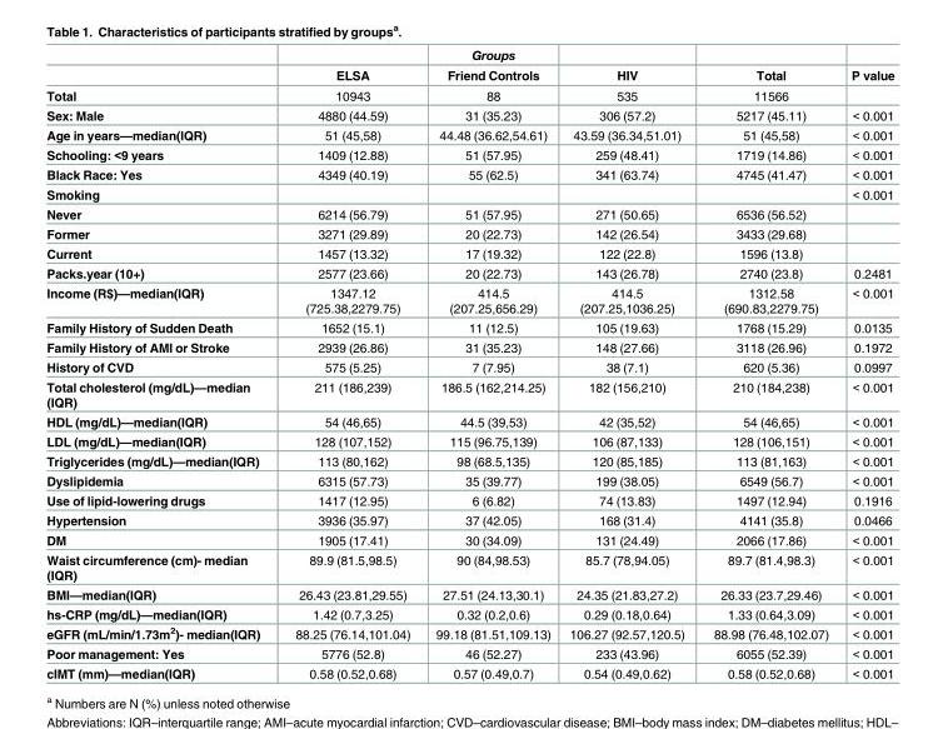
<table><thead><tr><td rowspan="2"></td><td rowspan="2">ELSA</td><td rowspan="2">Groups Friend Controls</td><td rowspan="2">HIV</td><td rowspan="2">Total</td><td rowspan="2">P value</td></tr><tr></tr></thead><tbody><tr><td>Total</td><td>10943</td><td>88</td><td>535</td><td>11566</td><td></td></tr><tr><td>Sex: Male</td><td>4880 (44.59)</td><td>31 (35.23)</td><td>306 (57.2)</td><td>5217 (45.11)</td><td>&lt; 0.001</td></tr><tr><td>Age in years—median(IQR)</td><td>51 (45,58)</td><td>44.48 (36.62,54.61)</td><td>43.59 (36.34,51.01)</td><td>51 (45,58)</td><td>&lt; 0.001</td></tr><tr><td>Schooling: &lt;9 years</td><td>1409 (12.88)</td><td>51 (57.95)</td><td>259 (48.41)</td><td>1719 (14.86)</td><td>&lt; 0.001</td></tr><tr><td>Black Race: Yes</td><td>4349 (40.19)</td><td>55 (62.5)</td><td>341 (63.74)</td><td>4745 (41.47)</td><td>&lt; 0.001</td></tr><tr><td>Smoking</td><td></td><td></td><td></td><td></td><td>&lt; 0.001</td></tr><tr><td>Never</td><td>6214 (56.79)</td><td>51 (57.95)</td><td>271 (50.65)</td><td>6536 (56.52)</td><td></td></tr><tr><td>Former</td><td>3271 (29.89)</td><td>20 (22.73)</td><td>142 (26.54)</td><td>3433 (29.68)</td><td></td></tr><tr><td>Current</td><td>1457 (13.32)</td><td>17 (19.32)</td><td>122 (22.8)</td><td>1596 (13.8)</td><td></td></tr><tr><td>Packs.year (10+)</td><td>2577 (23.66)</td><td>20 (22.73)</td><td>143 (26.78)</td><td>2740 (23.8)</td><td>0.2481</td></tr><tr><td>Income (R$)—median(IQR)</td><td>1347.12 (725.38,2279.75)</td><td>414.5 (207.25,656.29)</td><td>414.5 (207.25,1036.25)</td><td>1312.58 (690.83,2279.75)</td><td>&lt; 0.001</td></tr><tr><td>Family History of Sudden Death</td><td>1652 (15.1)</td><td>11 (12.5)</td><td>105 (19.63)</td><td>1768 (15.29)</td><td>0.0135</td></tr><tr><td>Family History of AMI or Stroke</td><td>2939 (26.86)</td><td>31 (35.23)</td><td>148 (27.66)</td><td>3118 (26.96)</td><td>0.1972</td></tr><tr><td>History of CVD</td><td>575 (5.25)</td><td>7 (7.95)</td><td>38 (7.1)</td><td>620 (5.36)</td><td>0.0997</td></tr><tr><td>Total cholesterol (mg/dL)—median (IQR)</td><td>211 (186,239)</td><td>186.5 (162,214.25)</td><td>182 (156,210)</td><td>210 (184,238)</td><td>&lt; 0.001</td></tr><tr><td>HDL (mg/dL)—median(IQR)</td><td>54 (46,65)</td><td>44.5 (39,53)</td><td>42 (35,52)</td><td>54 (46,65)</td><td>&lt; 0.001</td></tr><tr><td>LDL (mg/dL)—median(IQR)</td><td>128 (107,152)</td><td>115 (96.75,139)</td><td>106 (87,133)</td><td>128 (106,151)</td><td>&lt; 0.001</td></tr><tr><td>Triglycerides (mg/dL)—median(IQR)</td><td>113 (80,162)</td><td>98 (68.5,135)</td><td>120 (85,185)</td><td>113 (81,163)</td><td>&lt; 0.001</td></tr><tr><td>Dyslipidemia</td><td>6315 (57.73)</td><td>35 (39.77)</td><td>199 (38.05)</td><td>6549 (56.7)</td><td>&lt; 0.001</td></tr><tr><td>Use of lipid-lowering drugs</td><td>1417 (12.95)</td><td>6 (6.82)</td><td>74 (13.83)</td><td>1497 (12.94)</td><td>0.1916</td></tr><tr><td>Hypertension</td><td>3936 (35.97)</td><td>37 (42.05)</td><td>168 (31.4)</td><td>4141 (35.8)</td><td>0.0466</td></tr><tr><td>DM</td><td>1905 (17.41)</td><td>30 (34.09)</td><td>131 (24.49)</td><td>2066 (17.86)</td><td>&lt; 0.001</td></tr><tr><td>Waist circumference (cm)- median (IQR)</td><td>89.9 (81.5,98.5)</td><td>90 (84,98.53)</td><td>85.7 (78,94.05)</td><td>89.7 (81.4,98.3)</td><td>&lt; 0.001</td></tr><tr><td>BMI—median(IQR)</td><td>26.43 (23.81,29.55)</td><td>27.51 (24.13,30.1)</td><td>24.35 (21.83,27.2)</td><td>26.33 (23.7,29.46)</td><td>&lt; 0.001</td></tr><tr><td>hs-CRP (mg/dL)—median(IQR)</td><td>1.42 (0.7,3.25)</td><td>0.32 (0.2,0.6)</td><td>0.29 (0.18,0.64)</td><td>1.33 (0.64,3.09)</td><td>&lt; 0.001</td></tr><tr><td>eGFR (mL/min/1.73m<sup>2</sup>)- median(IQR)</td><td>88.25 (76.14,101.04)</td><td>99.18 (81.51,109.13)</td><td>106.27 (92.57,120.5)</td><td>88.98 (76.48,102.07)</td><td>&lt; 0.001</td></tr><tr><td>Poor management: Yes</td><td>5776 (52.8)</td><td>46 (52.27)</td><td>233 (43.96)</td><td>6055 (52.39)</td><td>&lt; 0.001</td></tr><tr><td>cIMT (mm)—median(IQR)</td><td>0.58 (0.52,0.68)</td><td>0.57 (0.49,0.7)</td><td>0.54 (0.49,0.62)</td><td>0.58 (0.52,0.68)</td><td>&lt; 0.001</td></tr></tbody></table>